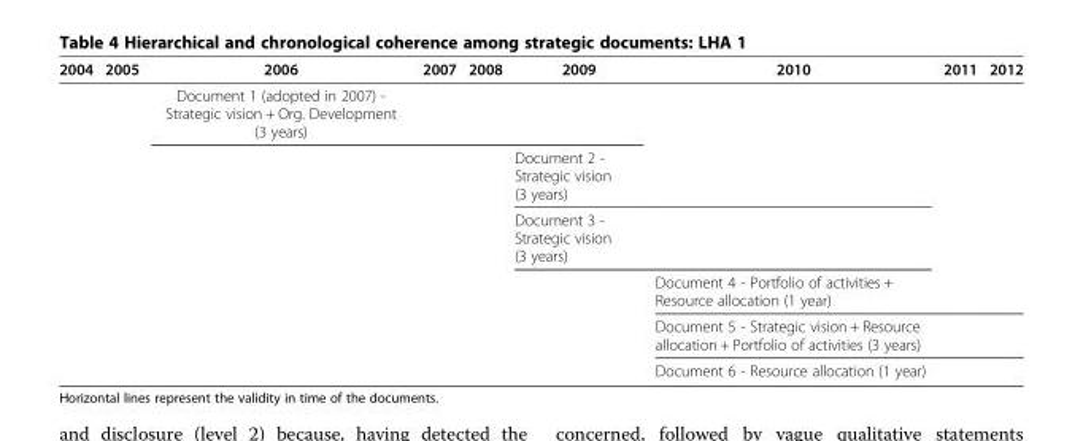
<table><thead><tr><td>2004</td><td>2005</td><td>2006</td><td>2007</td><td>2008</td><td>2009</td><td>2010</td><td>2011</td><td>2012</td></tr></thead><tbody><tr><td></td><td></td><td>Document 1 (adopted in 2007) - Strategic vision + Org. Development (3 years)</td><td></td><td></td><td></td><td></td><td></td><td></td></tr><tr><td></td><td></td><td></td><td></td><td></td><td>Document 2 - Strategic vision (3 years)</td><td></td><td></td><td></td></tr><tr><td></td><td></td><td></td><td></td><td></td><td>Document 3 - Strategic vision (3 years)</td><td></td><td></td><td></td></tr><tr><td></td><td></td><td></td><td></td><td></td><td></td><td>Document 4 - Portfolio of activities + Resource allocation (1 year)</td><td></td><td></td></tr><tr><td></td><td></td><td></td><td></td><td></td><td></td><td>Document 5 - Strategic vision + Resource allocation + Portfolio of activities (3 years)</td><td></td><td></td></tr><tr><td></td><td></td><td></td><td></td><td></td><td></td><td>Document 6 - Resource allocation (1 year)</td><td></td><td></td></tr></tbody></table>